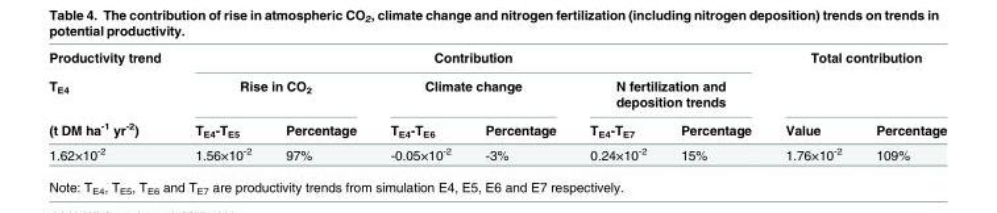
<table><thead><tr><td rowspan="3">Productivity trend T<sub>E4</sub> (t DM ha<sup>-1</sup> yr<sup>-2</sup>)</td><td colspan="6">Contribution</td><td rowspan="2" colspan="2">Total contribution</td></tr><tr><td colspan="2">Rise in CO<sub>2</sub></td><td colspan="2">Climate change</td><td colspan="2">N fertilization and deposition trends</td></tr><tr><td>T<sub>E4</sub>-T<sub>E5</sub></td><td>Percentage</td><td>T<sub>E4</sub>-T<sub>E6</sub></td><td>Percentage</td><td>T<sub>E4</sub>-T<sub>E7</sub></td><td>Percentage</td><td>Value</td><td>Percentage</td></tr></thead><tbody><tr><td>1.62×10<sup>-2</sup></td><td>1.56×10<sup>-2</sup></td><td>97%</td><td>-0.05×10<sup>-2</sup></td><td>-3%</td><td>0.24×10<sup>-2</sup></td><td>15%</td><td>1.76×10<sup>-2</sup></td><td>109%</td></tr></tbody></table>